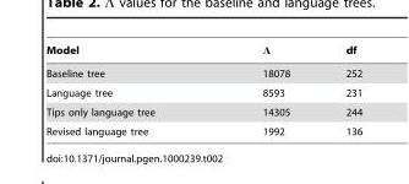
<table><thead><tr><td>Model</td><td>Λ</td><td>df</td></tr></thead><tbody><tr><td>Baseline tree</td><td>18078</td><td>252</td></tr><tr><td>Language tree</td><td>8593</td><td>231</td></tr><tr><td>Tips only language tree</td><td>14305</td><td>244</td></tr><tr><td>Revised language tree</td><td>1992</td><td>136</td></tr></tbody></table>